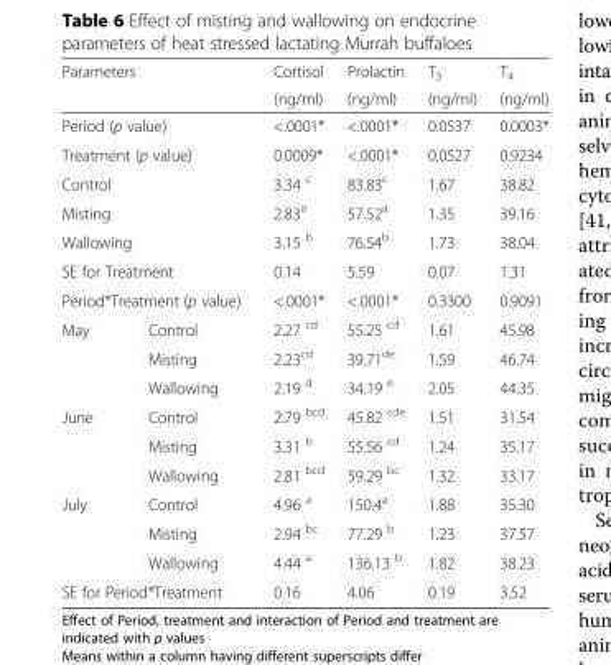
<table><thead><tr><td rowspan="2" colspan="2">Parameters</td><td rowspan="2">Cortisol (ng/ml)</td><td rowspan="2">Prolactin (ng/ml)</td><td rowspan="2">T<sub>3</sub> (ng/ml)</td><td rowspan="2">T<sub>4</sub> (ng/ml)</td></tr><tr></tr></thead><tbody><tr><td colspan="2">Period (p value)</td><td>&lt;.0001*</td><td>&lt;.0001*</td><td>0.0537</td><td>0.0003*</td></tr><tr><td colspan="2">Treatment (p value)</td><td>0.0009*</td><td>&lt;.0001*</td><td>0.0527</td><td>0.9234</td></tr><tr><td colspan="2">Control</td><td>3.34 <sup>c</sup></td><td>83.83<sup>c</sup></td><td>1.67</td><td>38.82</td></tr><tr><td colspan="2">Misting</td><td>2.83<sup>a</sup></td><td>57.52<sup>a</sup></td><td>1.35</td><td>39.16</td></tr><tr><td colspan="2">Wallowing</td><td>3.15 <sup>b</sup></td><td>76.54<sup>b</sup></td><td>1.73</td><td>38.04</td></tr><tr><td colspan="2">SE for Treatment</td><td>0.14</td><td>5.59</td><td>0.07</td><td>1.31</td></tr><tr><td colspan="2">Period*Treatment (p value)</td><td>&lt;.0001*</td><td>&lt;.0001*</td><td>0.3300</td><td>0.9091</td></tr><tr><td rowspan="3">May</td><td>Control</td><td>2.27 <sup>cd</sup></td><td>55.25 <sup>cd</sup></td><td>1.61</td><td>45.98</td></tr><tr><td>Misting</td><td>2.23<sup>cd</sup></td><td>39.71<sup>de</sup></td><td>1.59</td><td>46.74</td></tr><tr><td>Wallowing</td><td>2.19 <sup>d</sup></td><td>34.19 <sup>e</sup></td><td>2.05</td><td>44.35</td></tr><tr><td rowspan="3">June</td><td>Control</td><td>2.79 <sup>bcd</sup></td><td>45.82 <sup>cde</sup></td><td>1.51</td><td>31.54</td></tr><tr><td>Misting</td><td>3.31 <sup>b</sup></td><td>55.56 <sup>cd</sup></td><td>1.24</td><td>35.17</td></tr><tr><td>Wallowing</td><td>2.81 <sup>bcd</sup></td><td>59.29 <sup>bc</sup></td><td>1.32</td><td>33.17</td></tr><tr><td rowspan="3">July</td><td>Control</td><td>4.96 <sup>a</sup></td><td>150.4<sup>a</sup></td><td>1.88</td><td>35.30</td></tr><tr><td>Misting</td><td>2.94 <sup>bc</sup></td><td>77.29 <sup>b</sup></td><td>1.23</td><td>37.57</td></tr><tr><td>Wallowing</td><td>4.44 <sup>a</sup></td><td>136.13 <sup>b</sup></td><td>1.82</td><td>38.23</td></tr><tr><td colspan="2">SE for Period*Treatment</td><td>0.16</td><td>4.06</td><td>0.19</td><td>3.52</td></tr></tbody></table>